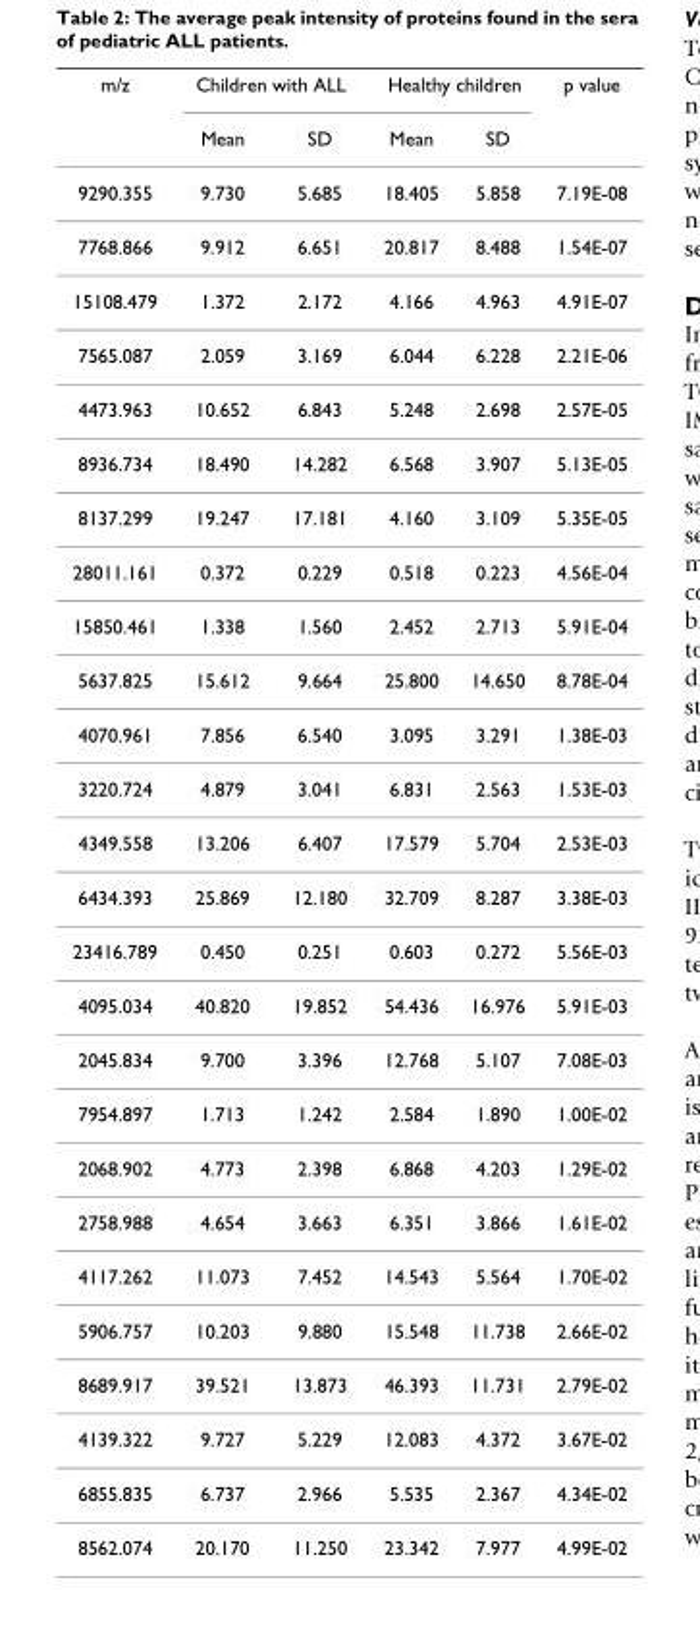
<table><thead><tr><td rowspan="2">m/z</td><td colspan="2">Children with ALL</td><td colspan="2">Healthy children</td><td rowspan="2">p value</td></tr><tr><td>Mean</td><td>SD</td><td>Mean</td><td>SD</td></tr></thead><tbody><tr><td>9290.355</td><td>9.730</td><td>5.685</td><td>18.405</td><td>5.858</td><td>7.19E-08</td></tr><tr><td>7768.866</td><td>9.912</td><td>6.651</td><td>20.817</td><td>8.488</td><td>1.54E-07</td></tr><tr><td>15108.479</td><td>1.372</td><td>2.172</td><td>4.166</td><td>4.963</td><td>4.91E-07</td></tr><tr><td>7565.087</td><td>2.059</td><td>3.169</td><td>6.044</td><td>6.228</td><td>2.21E-06</td></tr><tr><td>4473.963</td><td>10.652</td><td>6.843</td><td>5.248</td><td>2.698</td><td>2.57E-05</td></tr><tr><td>8936.734</td><td>18.490</td><td>14.282</td><td>6.568</td><td>3.907</td><td>5.13E-05</td></tr><tr><td>8137.299</td><td>19.247</td><td>17.181</td><td>4.160</td><td>3.109</td><td>5.35E-05</td></tr><tr><td>28011.161</td><td>0.372</td><td>0.229</td><td>0.518</td><td>0.223</td><td>4.56E-04</td></tr><tr><td>15850.461</td><td>1.338</td><td>1.560</td><td>2.452</td><td>2.713</td><td>5.91E-04</td></tr><tr><td>5637.825</td><td>15.612</td><td>9.664</td><td>25.800</td><td>14.650</td><td>8.78E-04</td></tr><tr><td>4070.961</td><td>7.856</td><td>6.540</td><td>3.095</td><td>3.291</td><td>1.38E-03</td></tr><tr><td>3220.724</td><td>4.879</td><td>3.041</td><td>6.831</td><td>2.563</td><td>1.53E-03</td></tr><tr><td>4349.558</td><td>13.206</td><td>6.407</td><td>17.579</td><td>5.704</td><td>2.53E-03</td></tr><tr><td>6434.393</td><td>25.869</td><td>12.180</td><td>32.709</td><td>8.287</td><td>3.38E-03</td></tr><tr><td>23416.789</td><td>0.450</td><td>0.251</td><td>0.603</td><td>0.272</td><td>5.56E-03</td></tr><tr><td>4095.034</td><td>40.820</td><td>19.852</td><td>54.436</td><td>16.976</td><td>5.91E-03</td></tr><tr><td>2045.834</td><td>9.700</td><td>3.396</td><td>12.768</td><td>5.107</td><td>7.08E-03</td></tr><tr><td>7954.897</td><td>1.713</td><td>1.242</td><td>2.584</td><td>1.890</td><td>1.00E-02</td></tr><tr><td>2068.902</td><td>4.773</td><td>2.398</td><td>6.868</td><td>4.203</td><td>1.29E-02</td></tr><tr><td>2758.988</td><td>4.654</td><td>3.663</td><td>6.351</td><td>3.866</td><td>1.61E-02</td></tr><tr><td>4117.262</td><td>11.073</td><td>7.452</td><td>14.543</td><td>5.564</td><td>1.70E-02</td></tr><tr><td>5906.757</td><td>10.203</td><td>9.880</td><td>15.548</td><td>11.738</td><td>2.66E-02</td></tr><tr><td>8689.917</td><td>39.521</td><td>13.873</td><td>46.393</td><td>11.731</td><td>2.79E-02</td></tr><tr><td>4139.322</td><td>9.727</td><td>5.229</td><td>12.083</td><td>4.372</td><td>3.67E-02</td></tr><tr><td>6855.835</td><td>6.737</td><td>2.966</td><td>5.535</td><td>2.367</td><td>4.34E-02</td></tr><tr><td>8562.074</td><td>20.170</td><td>11.250</td><td>23.342</td><td>7.977</td><td>4.99E-02</td></tr></tbody></table>